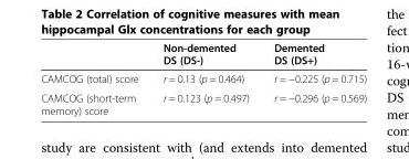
<table><thead><tr><td></td><td>Non-demented DS (DS-)</td><td>Demented DS (DS+)</td></tr></thead><tbody><tr><td>CAMCOG (total) score</td><td>r = 0.13 (p = 0.464)</td><td>r = −0.225 (p = 0.715)</td></tr><tr><td>CAMCOG (short-term memory) score</td><td>r = 0.123 (p = 0.497)</td><td>r = −0.296 (p = 0.569)</td></tr></tbody></table>